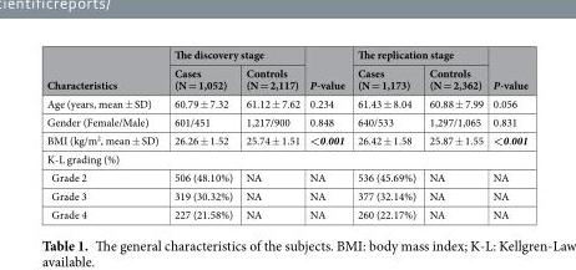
<table><thead><tr><td rowspan="2">Characteristics</td><td colspan="2">The discovery stage</td><td rowspan="2">P-value</td><td colspan="2">The replication stage</td><td rowspan="2">P-value</td></tr><tr><td>Cases (N = 1,052)</td><td>Controls (N = 2,117)</td><td>Cases (N = 1,173)</td><td>Controls (N = 2,362)</td></tr></thead><tbody><tr><td>Age (years, mean ± SD)</td><td>60.79 ± 7.32</td><td>61.12 ± 7.62</td><td>0.234</td><td>61.43 ± 8.04</td><td>60.88 ± 7.99</td><td>0.056</td></tr><tr><td>Gender (Female/Male)</td><td>601/451</td><td>1,217/900</td><td>0.848</td><td>640/533</td><td>1,297/1,065</td><td>0.831</td></tr><tr><td>BMI (kg/m<sup>2</sup>, mean ± SD)</td><td>26.26 ± 1.52</td><td>25.74 ± 1.51</td><td>&lt;0.001</td><td>26.42 ± 1.58</td><td>25.87 ± 1.55</td><td>&lt;0.001</td></tr><tr><td colspan="7">K-L grading (%)</td></tr><tr><td>Grade 2</td><td>506 (48.10%)</td><td>NA</td><td>NA</td><td>536 (45.69%)</td><td>NA</td><td>NA</td></tr><tr><td>Grade 3</td><td>319 (30.32%)</td><td>NA</td><td>NA</td><td>377 (32.14%)</td><td>NA</td><td>NA</td></tr><tr><td>Grade 4</td><td>227 (21.58%)</td><td>NA</td><td>NA</td><td>260 (22.17%)</td><td>NA</td><td>NA</td></tr></tbody></table>